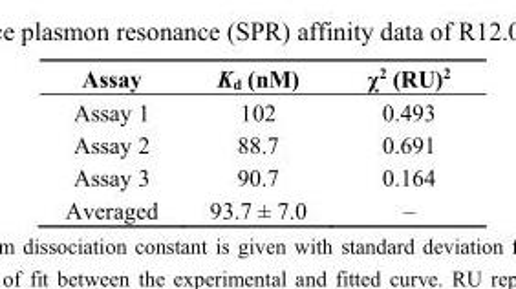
<table><thead><tr><td>Assay</td><td>K<sub>d</sub> (nM)</td><td>χ<sup>2</sup> (RU)<sup>2</sup></td></tr></thead><tbody><tr><td>Assay 1</td><td>102</td><td>0.493</td></tr><tr><td>Assay 2</td><td>88.7</td><td>0.691</td></tr><tr><td>Assay 3</td><td>90.7</td><td>0.164</td></tr><tr><td>Averaged</td><td>93.7 ± 7.0</td><td>–</td></tr></tbody></table>